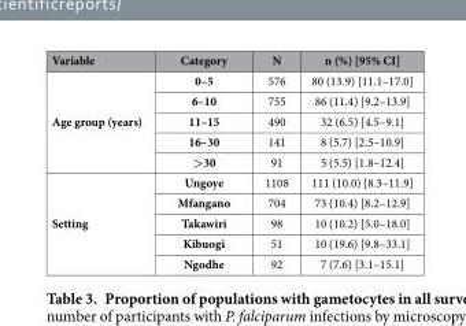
<table><thead><tr><td>Variable</td><td>Category</td><td>N</td><td>n (%) [95% CI]</td></tr></thead><tbody><tr><td rowspan="5">Age group (years)</td><td>0–5</td><td>576</td><td>80 (13.9) [11.1–17.0]</td></tr><tr><td>6–10</td><td>755</td><td>86 (11.4) [9.2–13.9]</td></tr><tr><td>11–15</td><td>490</td><td>32 (6.5) [4.5–9.1]</td></tr><tr><td>16–30</td><td>141</td><td>8 (5.7) [2.5–10.9]</td></tr><tr><td>&gt;30</td><td>91</td><td>5 (5.5) [1.8–12.4]</td></tr><tr><td rowspan="5">Setting</td><td>Ungoye</td><td>1108</td><td>111 (10.0) [8.3–11.9]</td></tr><tr><td>Mfangano</td><td>704</td><td>73 (10.4) [8.2–12.9]</td></tr><tr><td>Takawiri</td><td>98</td><td>10 (10.2) [5.0–18.0]</td></tr><tr><td>Kibuogi</td><td>51</td><td>10 (19.6) [9.8–33.1]</td></tr><tr><td>Ngodhe</td><td>92</td><td>7 (7.6) [3.1–15.1]</td></tr></tbody></table>